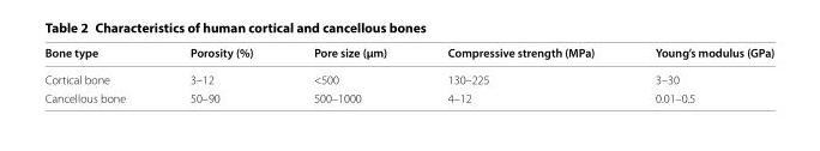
<table><thead><tr><td>Bone type</td><td>Porosity (%)</td><td>Pore size (μm)</td><td>Compressive strength (MPa)</td><td>Young’s modulus (GPa)</td></tr></thead><tbody><tr><td>Cortical bone</td><td>3–12</td><td>&lt;500</td><td>130–225</td><td>3–30</td></tr><tr><td>Cancellous bone</td><td>50–90</td><td>500–1000</td><td>4–12</td><td>0.01–0.5</td></tr></tbody></table>